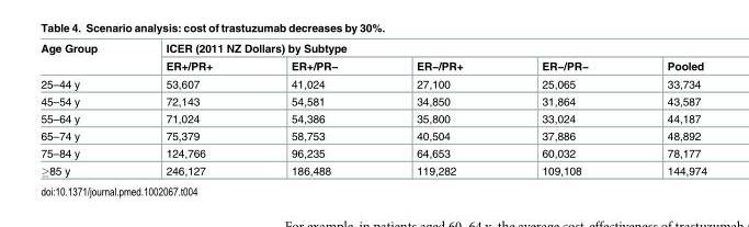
<table><thead><tr><td rowspan="2">Age Group</td><td colspan="5">ICER (2011 NZ Dollars) by Subtype</td></tr><tr><td>ER+/PR+</td><td>ER+/PR−</td><td>ER−/PR+</td><td>ER−/PR−</td><td>Pooled</td></tr></thead><tbody><tr><td>25–44 y</td><td>53,607</td><td>41,024</td><td>27,100</td><td>25,065</td><td>33,734</td></tr><tr><td>45–54 y</td><td>72,143</td><td>54,581</td><td>34,850</td><td>31,864</td><td>43,587</td></tr><tr><td>55–64 y</td><td>71,024</td><td>54,386</td><td>35,800</td><td>33,024</td><td>44,187</td></tr><tr><td>65–74 y</td><td>75,379</td><td>58,753</td><td>40,504</td><td>37,886</td><td>48,892</td></tr><tr><td>75–84 y</td><td>124,766</td><td>96,235</td><td>64,653</td><td>60,032</td><td>78,177</td></tr><tr><td>≥85 y</td><td>246,127</td><td>186,488</td><td>119,282</td><td>109,108</td><td>144,974</td></tr></tbody></table>